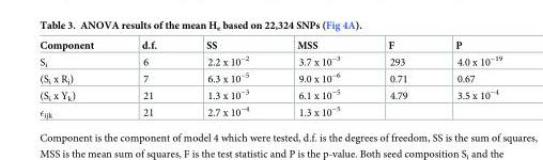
<table><thead><tr><td>Component</td><td>d.f.</td><td>SS</td><td>MSS</td><td>F</td><td>P</td></tr></thead><tbody><tr><td>S<sub>i</sub></td><td>6</td><td>2.2 x 10<sup>−2</sup></td><td>3.7 x 10<sup>−3</sup></td><td>293</td><td>4.0 x 10<sup>−19</sup></td></tr><tr><td>(S<sub>i</sub> x R<sub>j</sub>)</td><td>7</td><td>6.3 x 10<sup>−5</sup></td><td>9.0 x 10<sup>−6</sup></td><td>0.71</td><td>0.67</td></tr><tr><td>(S<sub>i</sub> x Y<sub>k</sub>)</td><td>21</td><td>1.3 x 10<sup>−3</sup></td><td>6.1 x 10<sup>−5</sup></td><td>4.79</td><td>3.5 x 10<sup>−4</sup></td></tr><tr><td>ϵ<sub>ijk</sub></td><td>21</td><td>2.7 x 10<sup>−4</sup></td><td>1.3 x 10<sup>−5</sup></td><td></td><td></td></tr></tbody></table>